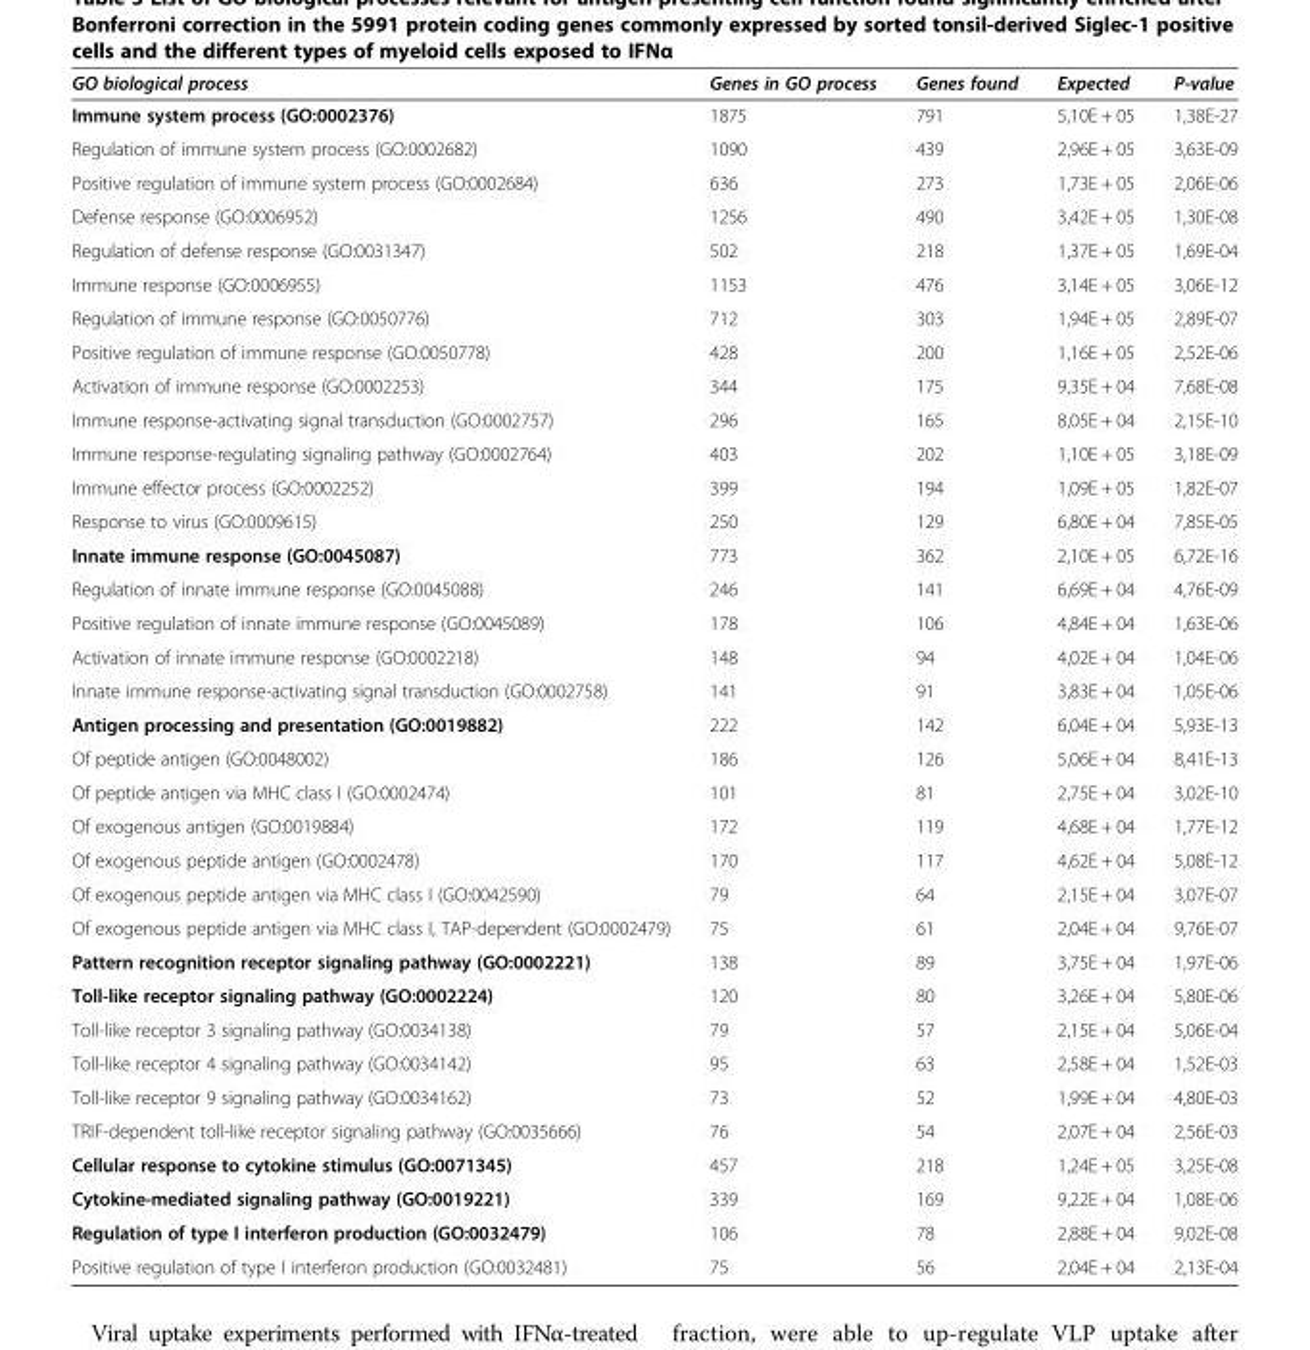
<table><thead><tr><td>GO biological process</td><td>Genes in GO process</td><td>Genes found</td><td>Expected</td><td>P-value</td></tr></thead><tbody><tr><td>Immune system process (GO:0002376)</td><td>1875</td><td>791</td><td>5,10E + 05</td><td>1,38E-27</td></tr><tr><td>Regulation of immune system process (GO:0002682)</td><td>1090</td><td>439</td><td>2,96E + 05</td><td>3,63E-09</td></tr><tr><td>Positive regulation of immune system process (GO:0002684)</td><td>636</td><td>273</td><td>1,73E + 05</td><td>2,06E-06</td></tr><tr><td>Defense response (GO:0006952)</td><td>1256</td><td>490</td><td>3,42E + 05</td><td>1,30E-08</td></tr><tr><td>Regulation of defense response (GO:0031347)</td><td>502</td><td>218</td><td>1,37E + 05</td><td>1,69E-04</td></tr><tr><td>Immune response (GO:0006955)</td><td>1153</td><td>476</td><td>3,14E + 05</td><td>3,06E-12</td></tr><tr><td>Regulation of immune response (GO:0050776)</td><td>712</td><td>303</td><td>1,94E + 05</td><td>2,89E-07</td></tr><tr><td>Positive regulation of immune response (GO:0050778)</td><td>428</td><td>200</td><td>1,16E + 05</td><td>2,52E-06</td></tr><tr><td>Activation of immune response (GO:0002253)</td><td>344</td><td>175</td><td>9,35E + 04</td><td>7,68E-08</td></tr><tr><td>Immune response-activating signal transduction (GO:0002757)</td><td>296</td><td>165</td><td>8,05E + 04</td><td>2,15E-10</td></tr><tr><td>Immune response-regulating signaling pathway (GO:0002764)</td><td>403</td><td>202</td><td>1,10E + 05</td><td>3,18E-09</td></tr><tr><td>Immune effector process (GO:0002252)</td><td>399</td><td>194</td><td>1,09E + 05</td><td>1,82E-07</td></tr><tr><td>Response to virus (GO:0009615)</td><td>250</td><td>129</td><td>6,80E + 04</td><td>7,85E-05</td></tr><tr><td>Innate immune response (GO:0045087)</td><td>773</td><td>362</td><td>2,10E + 05</td><td>6,72E-16</td></tr><tr><td>Regulation of innate immune response (GO:0045088)</td><td>246</td><td>141</td><td>6,69E + 04</td><td>4,76E-09</td></tr><tr><td>Positive regulation of innate immune response (GO:0045089)</td><td>178</td><td>106</td><td>4,84E + 04</td><td>1,63E-06</td></tr><tr><td>Activation of innate immune response (GO:0002218)</td><td>148</td><td>94</td><td>4,02E + 04</td><td>1,04E-06</td></tr><tr><td>Innate immune response-activating signal transduction (GO:0002758)</td><td>141</td><td>91</td><td>3,83E + 04</td><td>1,05E-06</td></tr><tr><td>Antigen processing and presentation (GO:0019882)</td><td>222</td><td>142</td><td>6,04E + 04</td><td>5,93E-13</td></tr><tr><td>Of peptide antigen (GO:0048002)</td><td>186</td><td>126</td><td>5,06E + 04</td><td>8,41E-13</td></tr><tr><td>Of peptide antigen via MHC class I (GO:0002474)</td><td>101</td><td>81</td><td>2,75E + 04</td><td>3,02E-10</td></tr><tr><td>Of exogenous antigen (GO:0019884)</td><td>172</td><td>119</td><td>4,68E + 04</td><td>1,77E-12</td></tr><tr><td>Of exogenous peptide antigen (GO:0002478)</td><td>170</td><td>117</td><td>4,62E + 04</td><td>5,08E-12</td></tr><tr><td>Of exogenous peptide antigen via MHC class I (GO:0042590)</td><td>79</td><td>64</td><td>2,15E + 04</td><td>3,07E-07</td></tr><tr><td>Of exogenous peptide antigen via MHC class I, TAP-dependent (GO:0002479)</td><td>75</td><td>61</td><td>2,04E + 04</td><td>9,76E-07</td></tr><tr><td>Pattern recognition receptor signaling pathway (GO:0002221)</td><td>138</td><td>89</td><td>3,75E + 04</td><td>1,97E-06</td></tr><tr><td>Toll-like receptor signaling pathway (GO:0002224)</td><td>120</td><td>80</td><td>3,26E + 04</td><td>5,80E-06</td></tr><tr><td>Toll-like receptor 3 signaling pathway (GO:0034138)</td><td>79</td><td>57</td><td>2,15E + 04</td><td>5,06E-04</td></tr><tr><td>Toll-like receptor 4 signaling pathway (GO:0034142)</td><td>95</td><td>63</td><td>2,58E + 04</td><td>1,52E-03</td></tr><tr><td>Toll-like receptor 9 signaling pathway (GO:0034162)</td><td>73</td><td>52</td><td>1,99E + 04</td><td>4,80E-03</td></tr><tr><td>TRIF-dependent toll-like receptor signaling pathway (GO:0035666)</td><td>76</td><td>54</td><td>2,07E + 04</td><td>2,56E-03</td></tr><tr><td>Cellular response to cytokine stimulus (GO:0071345)</td><td>457</td><td>218</td><td>1,24E + 05</td><td>3,25E-08</td></tr><tr><td>Cytokine-mediated signaling pathway (GO:0019221)</td><td>339</td><td>169</td><td>9,22E + 04</td><td>1,08E-06</td></tr><tr><td>Regulation of type I interferon production (GO:0032479)</td><td>106</td><td>78</td><td>2,88E + 04</td><td>9,02E-08</td></tr><tr><td>Positive regulation of type I interferon production (GO:0032481)</td><td>75</td><td>56</td><td>2,04E + 04</td><td>2,13E-04</td></tr></tbody></table>